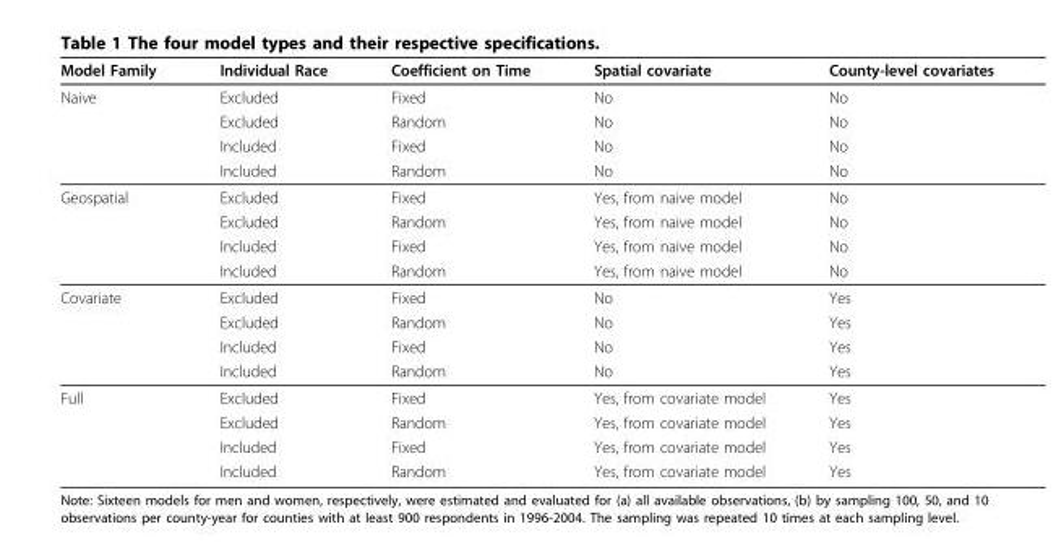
<table><thead><tr><td>Model Family</td><td>Individual Race</td><td>Coefficient on Time</td><td>Spatial covariate</td><td>County-level covariates</td></tr></thead><tbody><tr><td rowspan="4">Naive</td><td>Excluded</td><td>Fixed</td><td>No</td><td>No</td></tr><tr><td>Excluded</td><td>Random</td><td>No</td><td>No</td></tr><tr><td>Included</td><td>Fixed</td><td>No</td><td>No</td></tr><tr><td>Included</td><td>Random</td><td>No</td><td>No</td></tr><tr><td rowspan="4">Geospatial</td><td>Excluded</td><td>Fixed</td><td>Yes, from naive model</td><td>No</td></tr><tr><td>Excluded</td><td>Random</td><td>Yes, from naive model</td><td>No</td></tr><tr><td>Included</td><td>Fixed</td><td>Yes, from naive model</td><td>No</td></tr><tr><td>Included</td><td>Random</td><td>Yes, from naive model</td><td>No</td></tr><tr><td rowspan="4">Covariate</td><td>Excluded</td><td>Fixed</td><td>No</td><td>Yes</td></tr><tr><td>Excluded</td><td>Random</td><td>No</td><td>Yes</td></tr><tr><td>Included</td><td>Fixed</td><td>No</td><td>Yes</td></tr><tr><td>Included</td><td>Random</td><td>No</td><td>Yes</td></tr><tr><td rowspan="4">Full</td><td>Excluded</td><td>Fixed</td><td>Yes, from covariate model</td><td>Yes</td></tr><tr><td>Excluded</td><td>Random</td><td>Yes, from covariate model</td><td>Yes</td></tr><tr><td>Included</td><td>Fixed</td><td>Yes, from covariate model</td><td>Yes</td></tr><tr><td>Included</td><td>Random</td><td>Yes, from covariate model</td><td>Yes</td></tr></tbody></table>